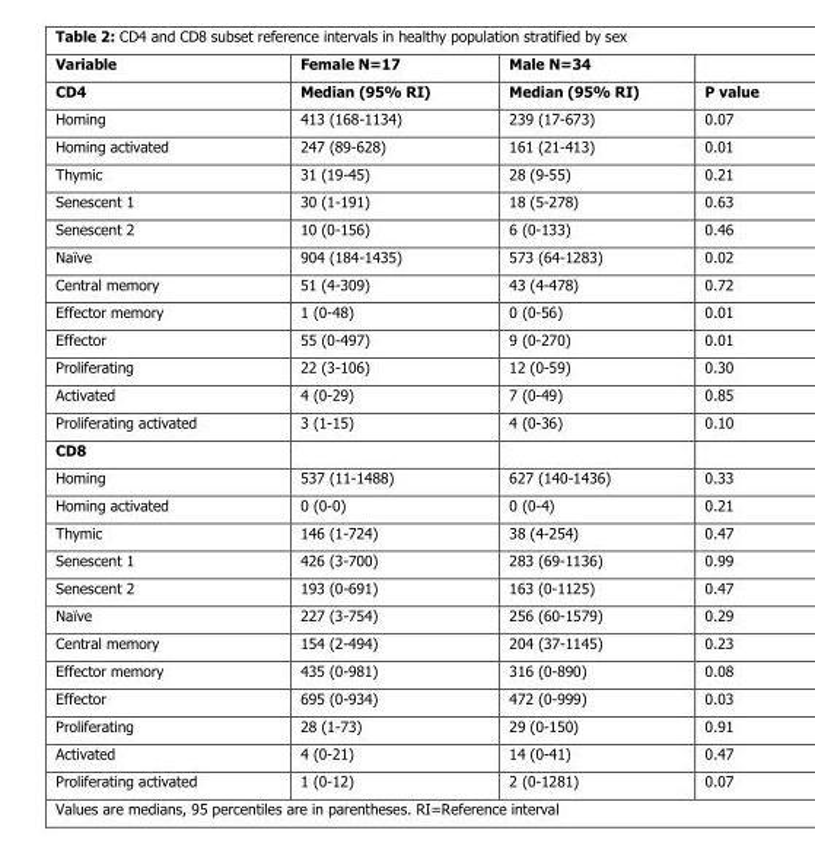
<table><thead><tr><td rowspan="2">Variable CD4</td><td rowspan="2">Female N=17 Median (95% RI)</td><td rowspan="2">Male N=34 Median (95% RI)</td><td rowspan="2">P value</td></tr><tr></tr></thead><tbody><tr><td>Homing</td><td>413 (168-1134)</td><td>239 (17-673)</td><td>0.07</td></tr><tr><td>Homing activated</td><td>247 (89-628)</td><td>161 (21-413)</td><td>0.01</td></tr><tr><td>Thymic</td><td>31 (19-45)</td><td>28 (9-55)</td><td>0.21</td></tr><tr><td>Senescent 1</td><td>30 (1-191)</td><td>18 (5-278)</td><td>0.63</td></tr><tr><td>Senescent 2</td><td>10 (0-156)</td><td>6 (0-133)</td><td>0.46</td></tr><tr><td>Naïve</td><td>904 (184-1435)</td><td>573 (64-1283)</td><td>0.02</td></tr><tr><td>Central memory</td><td>51 (4-309)</td><td>43 (4-478)</td><td>0.72</td></tr><tr><td>Effector memory</td><td>1 (0-48)</td><td>0 (0-56)</td><td>0.01</td></tr><tr><td>Effector</td><td>55 (0-497)</td><td>9 (0-270)</td><td>0.01</td></tr><tr><td>Proliferating</td><td>22 (3-106)</td><td>12 (0-59)</td><td>0.30</td></tr><tr><td>Activated</td><td>4 (0-29)</td><td>7 (0-49)</td><td>0.85</td></tr><tr><td>Proliferating activated</td><td>3 (1-15)</td><td>4 (0-36)</td><td>0.10</td></tr><tr><td colspan="4">CD8</td></tr><tr><td>Homing</td><td>537 (11-1488)</td><td>627 (140-1436)</td><td>0.33</td></tr><tr><td>Homing activated</td><td>0 (0-0)</td><td>0 (0-4)</td><td>0.21</td></tr><tr><td>Thymic</td><td>146 (1-724)</td><td>38 (4-254)</td><td>0.47</td></tr><tr><td>Senescent 1</td><td>426 (3-700)</td><td>283 (69-1136)</td><td>0.99</td></tr><tr><td>Senescent 2</td><td>193 (0-691)</td><td>163 (0-1125)</td><td>0.47</td></tr><tr><td>Naïve</td><td>227 (3-754)</td><td>256 (60-1579)</td><td>0.29</td></tr><tr><td>Central memory</td><td>154 (2-494)</td><td>204 (37-1145)</td><td>0.23</td></tr><tr><td>Effector memory</td><td>435 (0-981)</td><td>316 (0-890)</td><td>0.08</td></tr><tr><td>Effector</td><td>695 (0-934)</td><td>472 (0-999)</td><td>0.03</td></tr><tr><td>Proliferating</td><td>28 (1-73)</td><td>29 (0-150)</td><td>0.91</td></tr><tr><td>Activated</td><td>4 (0-21)</td><td>14 (0-41)</td><td>0.47</td></tr><tr><td>Proliferating activated</td><td>1 (0-12)</td><td>2 (0-1281)</td><td>0.07</td></tr></tbody></table>